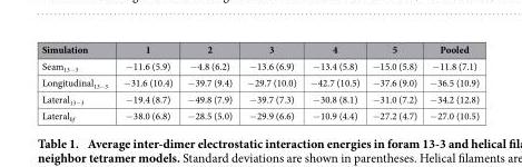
<table><thead><tr><td>Simulation</td><td>1</td><td>2</td><td>3</td><td>4</td><td>5</td><td>Pooled</td></tr></thead><tbody><tr><td>Seam<sub>13−3</sub></td><td>− 11.6 (5.9)</td><td>− 4.8 (6.2)</td><td>− 13.6 (6.9)</td><td>− 13.4 (5.8)</td><td>− 15.0 (5.8)</td><td>− 11.8 (7.1)</td></tr><tr><td>Longitudinal<sub>13−3</sub></td><td>− 31.6 (10.4)</td><td>− 39.7 (9.4)</td><td>− 29.7 (10.0)</td><td>− 42.7 (10.5)</td><td>− 37.6 (9.0)</td><td>− 36.5 (10.9)</td></tr><tr><td>Lateral<sub>13−3</sub></td><td>− 19.4 (8.7)</td><td>− 49.8 (7.9)</td><td>− 39.7 (7.3)</td><td>− 30.8 (8.1)</td><td>− 31.0 (7.2)</td><td>− 34.2 (12.8)</td></tr><tr><td>Lateral<sub>hf</sub></td><td>− 38.0 (6.8)</td><td>− 28.5 (5.0)</td><td>− 29.9 (6.6)</td><td>− 10.9 (4.4)</td><td>− 27.2 (4.7)</td><td>− 27.0 (10.5)</td></tr></tbody></table>